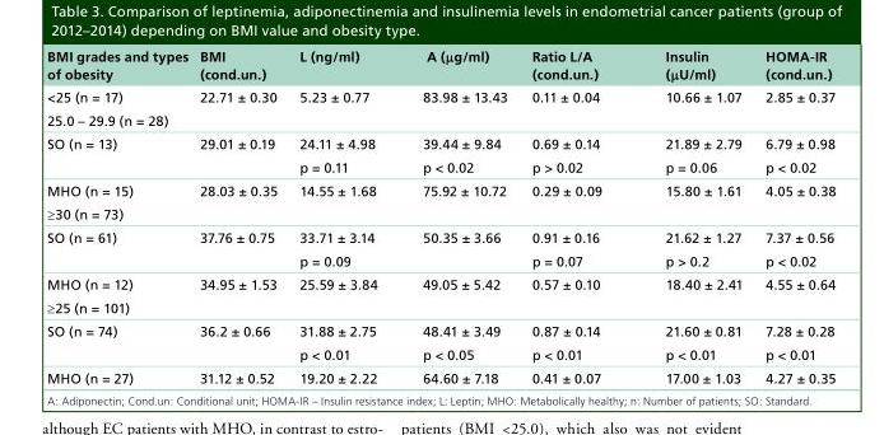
<table><thead><tr><td>BMI grades and types of obesity</td><td>BMI (cond.un.)</td><td>L (ng/ml)</td><td>A (μg/ml)</td><td>Ratio L/A (cond.un.)</td><td>Insulin (μU/ml)</td><td>HOMA-IR (cond.un.)</td></tr></thead><tbody><tr><td>&lt;25 (n = 17)</td><td>22.71 ± 0.30</td><td>5.23 ± 0.77</td><td>83.98 ± 13.43</td><td>0.11 ± 0.04</td><td>10.66 ± 1.07</td><td>2.85 ± 0.37</td></tr><tr><td colspan="7">25.0 – 29.9 (n = 28)</td></tr><tr><td rowspan="2">SO (n = 13)</td><td>29.01 ± 0.19</td><td>24.11 ± 4.98</td><td>39.44 ± 9.84</td><td>0.69 ± 0.14</td><td>21.89 ± 2.79</td><td>6.79 ± 0.98</td></tr><tr><td></td><td>p = 0.11</td><td>p &lt; 0.02</td><td>p &gt; 0.02</td><td>p = 0.06</td><td>p &lt; 0.02</td></tr><tr><td>MHO (n = 15)</td><td>28.03 ± 0.35</td><td>14.55 ± 1.68</td><td>75.92 ± 10.72</td><td>0.29 ± 0.09</td><td>15.80 ± 1.61</td><td>4.05 ± 0.38</td></tr><tr><td colspan="7">≥30 (n = 73)</td></tr><tr><td rowspan="2">SO (n = 61)</td><td>37.76 ± 0.75</td><td>33.71 ± 3.14</td><td>50.35 ± 3.66</td><td>0.91 ± 0.16</td><td>21.62 ± 1.27</td><td>7.37 ± 0.56</td></tr><tr><td></td><td>p = 0.09</td><td></td><td>p = 0.07</td><td>p &gt; 0.2</td><td>p &lt; 0.02</td></tr><tr><td>MHO (n = 12)</td><td>34.95 ± 1.53</td><td>25.59 ± 3.84</td><td>49.05 ± 5.42</td><td>0.57 ± 0.10</td><td>18.40 ± 2.41</td><td>4.55 ± 0.64</td></tr><tr><td colspan="7">≥25 (n = 101)</td></tr><tr><td rowspan="2">SO (n = 74)</td><td>36.2 ± 0.66</td><td>31.88 ± 2.75</td><td>48.41 ± 3.49</td><td>0.87 ± 0.14</td><td>21.60 ± 0.81</td><td>7.28 ± 0.28</td></tr><tr><td></td><td>p &lt; 0.01</td><td>p &lt; 0.05</td><td>p &lt; 0.01</td><td>p &lt; 0.01</td><td>p &lt; 0.01</td></tr><tr><td>MHO (n = 27)</td><td>31.12 ± 0.52</td><td>19.20 ± 2.22</td><td>64.60 ± 7.18</td><td>0.41 ± 0.07</td><td>17.00 ± 1.03</td><td>4.27 ± 0.35</td></tr></tbody></table>